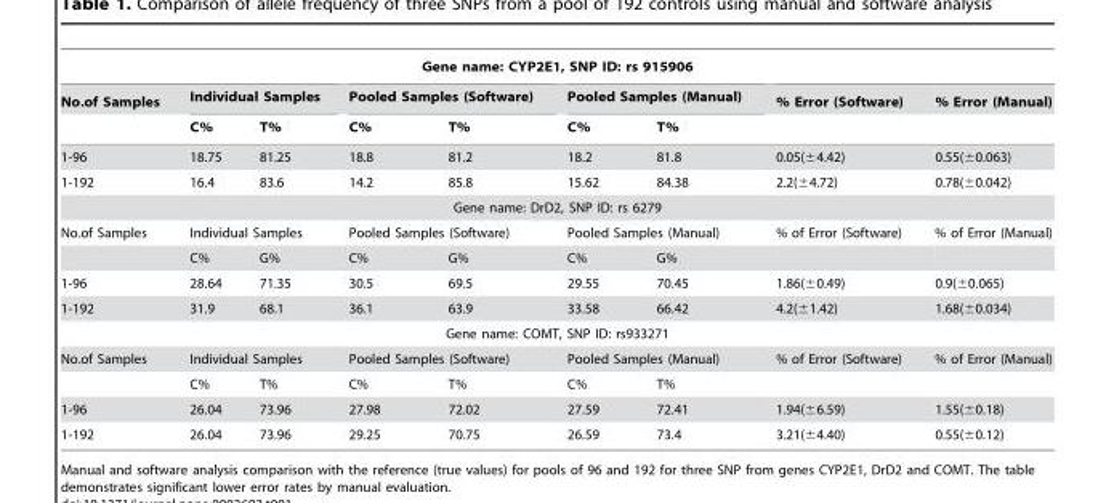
<table><thead><tr><td colspan="9">Gene name: CYP2E1, SNP ID: rs 915906</td></tr><tr><td rowspan="2">No.of Samples</td><td colspan="2">Individual Samples</td><td colspan="2">Pooled Samples (Software)</td><td colspan="2">Pooled Samples (Manual)</td><td rowspan="2">% Error (Software)</td><td rowspan="2">% Error (Manual)</td></tr><tr><td>C%</td><td>T%</td><td>C%</td><td>T%</td><td>C%</td><td>T%</td></tr></thead><tbody><tr><td>1-96</td><td>18.75</td><td>81.25</td><td>18.8</td><td>81.2</td><td>18.2</td><td>81.8</td><td>0.05(±4.42)</td><td>0.55(±0.063)</td></tr><tr><td>1-192</td><td>16.4</td><td>83.6</td><td>14.2</td><td>85.8</td><td>15.62</td><td>84.38</td><td>2.2(±4.72)</td><td>0.78(±0.042)</td></tr><tr><td colspan="9">Gene name: DrD2, SNP ID: rs 6279</td></tr><tr><td rowspan="2">No.of Samples</td><td colspan="2">Individual Samples</td><td colspan="2">Pooled Samples (Software)</td><td colspan="2">Pooled Samples (Manual)</td><td>% of Error (Software)</td><td>% of Error (Manual)</td></tr><tr><td>C%</td><td>G%</td><td>C%</td><td>G%</td><td>C%</td><td>G%</td><td></td><td></td></tr><tr><td>1-96</td><td>28.64</td><td>71.35</td><td>30.5</td><td>69.5</td><td>29.55</td><td>70.45</td><td>1.86(±0.49)</td><td>0.9(±0.065)</td></tr><tr><td>1-192</td><td>31.9</td><td>68.1</td><td>36.1</td><td>63.9</td><td>33.58</td><td>66.42</td><td>4.2(±1.42)</td><td>1.68(±0.034)</td></tr><tr><td colspan="9">Gene name: COMT, SNP ID: rs933271</td></tr><tr><td rowspan="2">No.of Samples</td><td colspan="2">Individual Samples</td><td colspan="2">Pooled Samples (Software)</td><td colspan="2">Pooled Samples (Manual)</td><td>% of Error (Software)</td><td>% of Error (Manual)</td></tr><tr><td>C%</td><td>T%</td><td>C%</td><td>T%</td><td>C%</td><td>T%</td><td></td><td></td></tr><tr><td>1-96</td><td>26.04</td><td>73.96</td><td>27.98</td><td>72.02</td><td>27.59</td><td>72.41</td><td>1.94(±6.59)</td><td>1.55(±0.18)</td></tr><tr><td>1-192</td><td>26.04</td><td>73.96</td><td>29.25</td><td>70.75</td><td>26.59</td><td>73.4</td><td>3.21(±4.40)</td><td>0.55(±0.12)</td></tr></tbody></table>